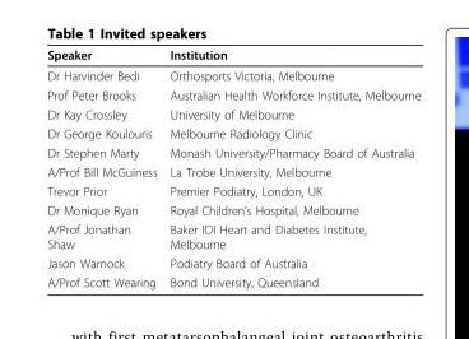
<table><thead><tr><td>Speaker</td><td>Institution</td></tr></thead><tbody><tr><td>Dr Harvinder Bedi</td><td>Orthosports Victoria, Melbourne</td></tr><tr><td>Prof Peter Brooks</td><td>Australian Health Workforce Institute, Melbourne</td></tr><tr><td>Dr Kay Crossley</td><td>University of Melbourne</td></tr><tr><td>Dr George Koulouris</td><td>Melbourne Radiology Clinic</td></tr><tr><td>Dr Stephen Marty</td><td>Monash University/Pharmacy Board of Australia</td></tr><tr><td>A/Prof Bill McGuiness</td><td>La Trobe University, Melbourne</td></tr><tr><td>Trevor Prior</td><td>Premier Podiatry, London, UK</td></tr><tr><td>Dr Monique Ryan</td><td>Royal Children’s Hospital, Melbourne</td></tr><tr><td>A/Prof Jonathan Shaw</td><td>Baker IDI Heart and Diabetes Institute, Melbourne</td></tr><tr><td>Jason Warnock</td><td>Podiatry Board of Australia</td></tr><tr><td>A/Prof Scott Wearing</td><td>Bond University, Queensland</td></tr></tbody></table>